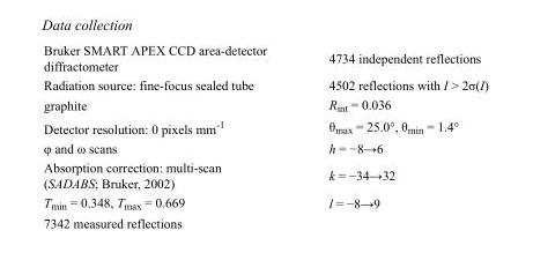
<table><tbody><tr><td>Bruker SMART APEX CCD area-detector diffractometer</td><td>4734 independent reflections</td></tr><tr><td>Radiation source: fine-focus sealed tube</td><td>4502 reflections with I &gt; 2σ(I)</td></tr><tr><td>graphite</td><td>R<sub>int</sub> = 0.036</td></tr><tr><td>Detector resolution: 0 pixels mm<sup>-1</sup></td><td>θ<sub>max</sub> = 25.0°, θ<sub>min</sub> = 1.4°</td></tr><tr><td>φ and ω scans</td><td>h = −8→6</td></tr><tr><td>Absorption correction: multi-scan (SADABS; Bruker, 2002)</td><td>k = −34→32</td></tr><tr><td>T<sub>min</sub> = 0.348, T<sub>max</sub> = 0.669</td><td>l = −8→9</td></tr><tr><td>7342 measured reflections</td><td></td></tr></tbody></table>